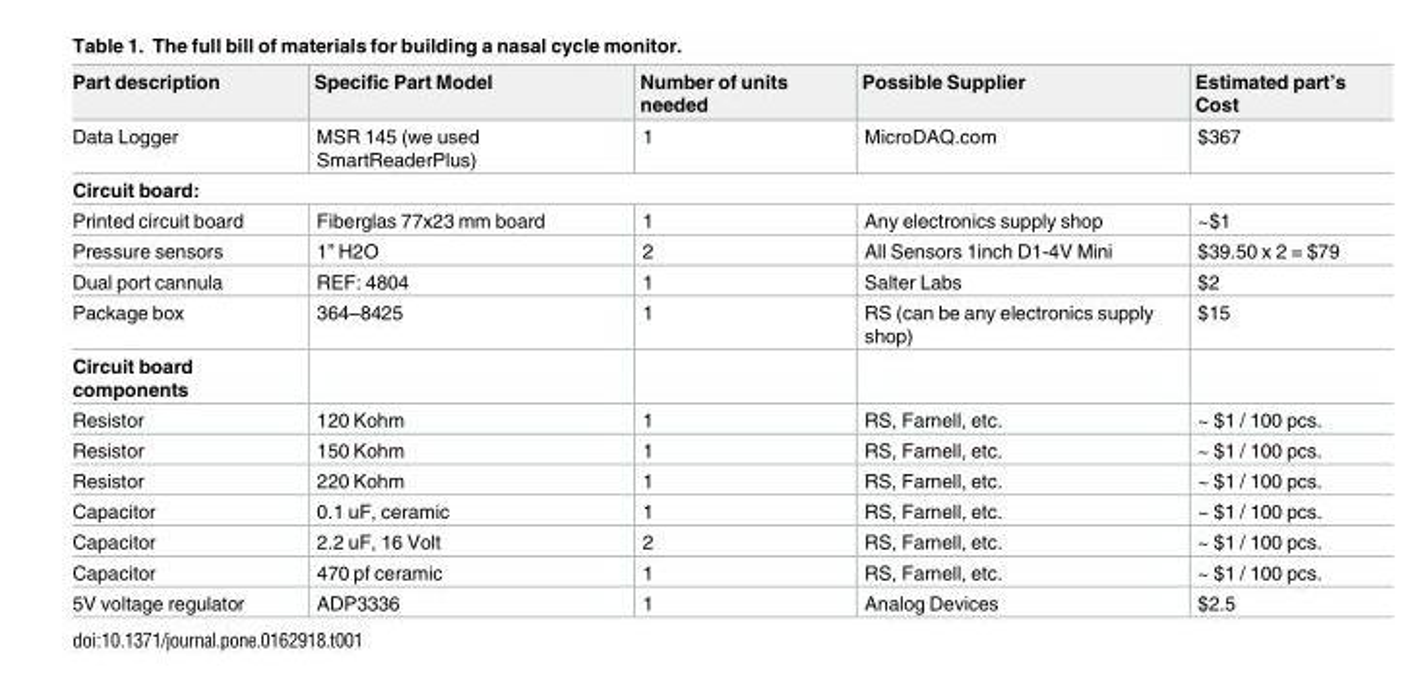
<table><thead><tr><td>Part description</td><td>Specific Part Model</td><td>Number of units needed</td><td>Possible Supplier</td><td>Estimated part’s Cost</td></tr></thead><tbody><tr><td>Data Logger</td><td>MSR 145 (we used SmartReaderPlus)</td><td>1</td><td>MicroDAQ.com</td><td>$367</td></tr><tr><td colspan="5">Circuit board:</td></tr><tr><td>Printed circuit board</td><td>Fiberglas 77x23 mm board</td><td>1</td><td>Any electronics supply shop</td><td>~$1</td></tr><tr><td>Pressure sensors</td><td>1” H2O</td><td>2</td><td>All Sensors 1inch D1-4V Mini</td><td>$39.50 x 2 = $79</td></tr><tr><td>Dual port cannula</td><td>REF: 4804</td><td>1</td><td>Salter Labs</td><td>$2</td></tr><tr><td>Package box</td><td>364–8425</td><td>1</td><td>RS (can be any electronics supply shop)</td><td>$15</td></tr><tr><td colspan="5">Circuit board components</td></tr><tr><td>Resistor</td><td>120 Kohm</td><td>1</td><td>RS, Farnell, etc.</td><td>~ $1 / 100 pcs.</td></tr><tr><td>Resistor</td><td>150 Kohm</td><td>1</td><td>RS, Farnell, etc.</td><td>~ $1 / 100 pcs.</td></tr><tr><td>Resistor</td><td>220 Kohm</td><td>1</td><td>RS, Farnell, etc.</td><td>~ $1 / 100 pcs.</td></tr><tr><td>Capacitor</td><td>0.1 uF, ceramic</td><td>1</td><td>RS, Farnell, etc.</td><td>~ $1 / 100 pcs.</td></tr><tr><td>Capacitor</td><td>2.2 uF, 16 Volt</td><td>2</td><td>RS, Farnell, etc.</td><td>~ $1 / 100 pcs.</td></tr><tr><td>Capacitor</td><td>470 pf ceramic</td><td>1</td><td>RS, Farnell, etc.</td><td>~ $1 / 100 pcs.</td></tr><tr><td>5V voltage regulator</td><td>ADP3336</td><td>1</td><td>Analog Devices</td><td>$2.5</td></tr></tbody></table>